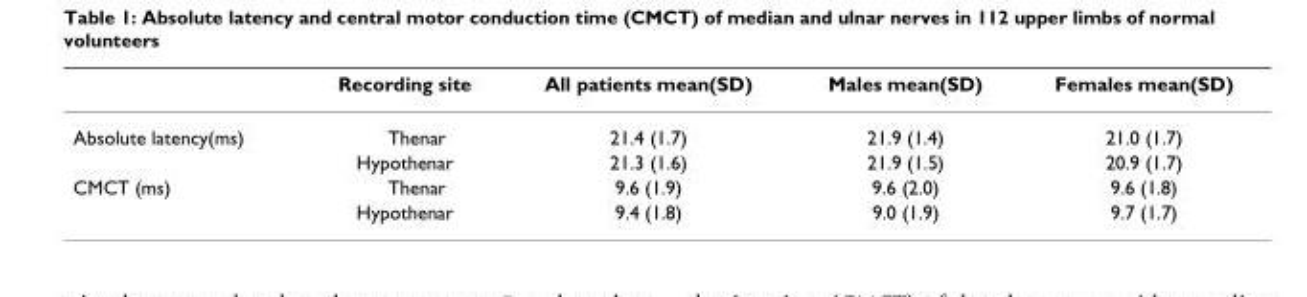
<table><thead><tr><td></td><td>Recording site</td><td>All patients mean(SD)</td><td>Males mean(SD)</td><td>Females mean(SD)</td></tr></thead><tbody><tr><td rowspan="2">Absolute latency(ms)</td><td>Thenar</td><td>21.4 (1.7)</td><td>21.9 (1.4)</td><td>21.0 (1.7)</td></tr><tr><td>Hypothenar</td><td>21.3 (1.6)</td><td>21.9 (1.5)</td><td>20.9 (1.7)</td></tr><tr><td rowspan="2">CMCT (ms)</td><td>Thenar</td><td>9.6 (1.9)</td><td>9.6 (2.0)</td><td>9.6 (1.8)</td></tr><tr><td>Hypothenar</td><td>9.4 (1.8)</td><td>9.0 (1.9)</td><td>9.7 (1.7)</td></tr></tbody></table>